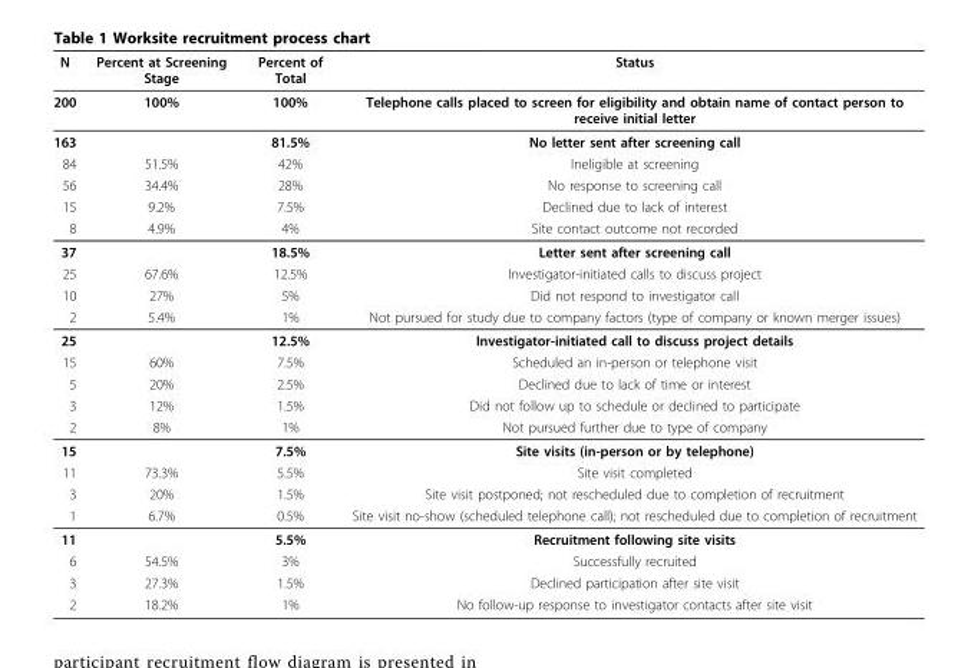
<table><thead><tr><td>N</td><td>Percent at Screening Stage</td><td>Percent of Total</td><td>Status</td></tr></thead><tbody><tr><td>200</td><td>100%</td><td>100%</td><td>Telephone calls placed to screen for eligibility and obtain name of contact person to receive initial letter</td></tr><tr><td>163</td><td></td><td>81.5%</td><td>No letter sent after screening call</td></tr><tr><td>84</td><td>51.5%</td><td>42%</td><td>Ineligible at screening</td></tr><tr><td>56</td><td>34.4%</td><td>28%</td><td>No response to screening call</td></tr><tr><td>15</td><td>9.2%</td><td>7.5%</td><td>Declined due to lack of interest</td></tr><tr><td>8</td><td>4.9%</td><td>4%</td><td>Site contact outcome not recorded</td></tr><tr><td>37</td><td></td><td>18.5%</td><td>Letter sent after screening call</td></tr><tr><td>25</td><td>67.6%</td><td>12.5%</td><td>Investigator-initiated calls to discuss project</td></tr><tr><td>10</td><td>27%</td><td>5%</td><td>Did not respond to investigator call</td></tr><tr><td>2</td><td>5.4%</td><td>1%</td><td>Not pursued for study due to company factors (type of company or known merger issues)</td></tr><tr><td>25</td><td></td><td>12.5%</td><td>Investigator-initiated call to discuss project details</td></tr><tr><td>15</td><td>60%</td><td>7.5%</td><td>Scheduled an in-person or telephone visit</td></tr><tr><td>5</td><td>20%</td><td>2.5%</td><td>Declined due to lack of time or interest</td></tr><tr><td>3</td><td>12%</td><td>1.5%</td><td>Did not follow up to schedule or declined to participate</td></tr><tr><td>2</td><td>8%</td><td>1%</td><td>Not pursued further due to type of company</td></tr><tr><td>15</td><td></td><td>7.5%</td><td>Site visits (in-person or by telephone)</td></tr><tr><td>11</td><td>73.3%</td><td>5.5%</td><td>Site visit completed</td></tr><tr><td>3</td><td>20%</td><td>1.5%</td><td>Site visit postponed; not rescheduled due to completion of recruitment</td></tr><tr><td>1</td><td>6.7%</td><td>0.5%</td><td>Site visit no-show (scheduled telephone call); not rescheduled due to completion of recruitment</td></tr><tr><td>11</td><td></td><td>5.5%</td><td>Recruitment following site visits</td></tr><tr><td>6</td><td>54.5%</td><td>3%</td><td>Successfully recruited</td></tr><tr><td>3</td><td>27.3%</td><td>1.5%</td><td>Declined participation after site visit</td></tr><tr><td>2</td><td>18.2%</td><td>1%</td><td>No follow-up response to investigator contacts after site visit</td></tr></tbody></table>